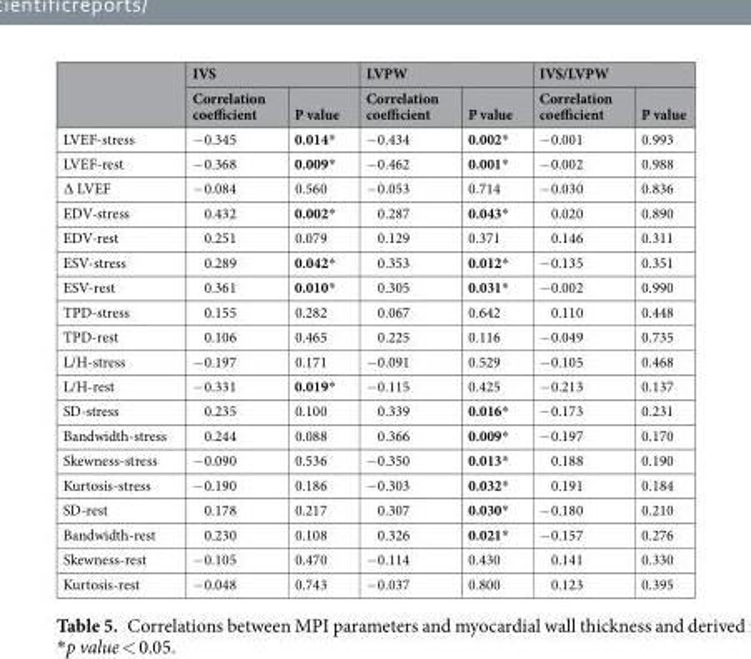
<table><thead><tr><td rowspan="2"></td><td colspan="2">IVS</td><td colspan="2">LVPW</td><td colspan="2">IVS/LVPW</td></tr><tr><td>Correlation coefficient</td><td>P value</td><td>Correlation coefficient</td><td>P value</td><td>Correlation coefficient</td><td>P value</td></tr></thead><tbody><tr><td>LVEF-stress</td><td>−0.345</td><td>0.014*</td><td>−0.434</td><td>0.002*</td><td>−0.001</td><td>0.993</td></tr><tr><td>LVEF-rest</td><td>−0.368</td><td>0.009*</td><td>−0.462</td><td>0.001*</td><td>−0.002</td><td>0.988</td></tr><tr><td>∆ LVEF</td><td>−0.084</td><td>0.560</td><td>−0.053</td><td>0.714</td><td>−0.030</td><td>0.836</td></tr><tr><td>EDV-stress</td><td>0.432</td><td>0.002*</td><td>0.287</td><td>0.043*</td><td>0.020</td><td>0.890</td></tr><tr><td>EDV-rest</td><td>0.251</td><td>0.079</td><td>0.129</td><td>0.371</td><td>0.146</td><td>0.311</td></tr><tr><td>ESV-stress</td><td>0.289</td><td>0.042*</td><td>0.353</td><td>0.012*</td><td>−0.135</td><td>0.351</td></tr><tr><td>ESV-rest</td><td>0.361</td><td>0.010*</td><td>0.305</td><td>0.031*</td><td>−0.002</td><td>0.990</td></tr><tr><td>TPD-stress</td><td>0.155</td><td>0.282</td><td>0.067</td><td>0.642</td><td>0.110</td><td>0.448</td></tr><tr><td>TPD-rest</td><td>0.106</td><td>0.465</td><td>0.225</td><td>0.116</td><td>−0.049</td><td>0.735</td></tr><tr><td>L/H-stress</td><td>−0.197</td><td>0.171</td><td>−0.091</td><td>0.529</td><td>−0.105</td><td>0.468</td></tr><tr><td>L/H-rest</td><td>−0.331</td><td>0.019*</td><td>−0.115</td><td>0.425</td><td>−0.213</td><td>0.137</td></tr><tr><td>SD-stress</td><td>0.235</td><td>0.100</td><td>0.339</td><td>0.016*</td><td>−0.173</td><td>0.231</td></tr><tr><td>Bandwidth-stress</td><td>0.244</td><td>0.088</td><td>0.366</td><td>0.009*</td><td>−0.197</td><td>0.170</td></tr><tr><td>Skewness-stress</td><td>−0.090</td><td>0.536</td><td>−0.350</td><td>0.013*</td><td>0.188</td><td>0.190</td></tr><tr><td>Kurtosis-stress</td><td>−0.190</td><td>0.186</td><td>−0.303</td><td>0.032*</td><td>0.191</td><td>0.184</td></tr><tr><td>SD-rest</td><td>0.178</td><td>0.217</td><td>0.307</td><td>0.030*</td><td>−0.180</td><td>0.210</td></tr><tr><td>Bandwidth-rest</td><td>0.230</td><td>0.108</td><td>0.326</td><td>0.021*</td><td>−0.157</td><td>0.276</td></tr><tr><td>Skewness-rest</td><td>−0.105</td><td>0.470</td><td>−0.114</td><td>0.430</td><td>0.141</td><td>0.330</td></tr><tr><td>Kurtosis-rest</td><td>−0.048</td><td>0.743</td><td>−0.037</td><td>0.800</td><td>0.123</td><td>0.395</td></tr></tbody></table>